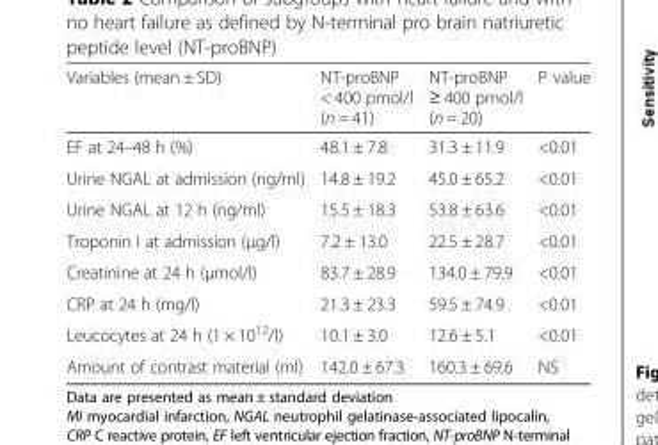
<table><thead><tr><td>Variables (mean ± SD)</td><td>NT-proBNP &lt; 400 pmol/l (n = 41)</td><td>NT-proBNP ≥ 400 pmol/l (n = 20)</td><td>P value</td></tr></thead><tbody><tr><td>EF at 24–48 h (%)</td><td>48.1 ± 7.8</td><td>31.3 ± 11.9</td><td>&lt;0.01</td></tr><tr><td>Urine NGAL at admission (ng/ml)</td><td>14.8 ± 19.2</td><td>45.0 ± 65.2</td><td>&lt;0.01</td></tr><tr><td>Urine NGAL at 12 h (ng/ml)</td><td>15.5 ± 18.3</td><td>53.8 ± 63.6</td><td>&lt;0.01</td></tr><tr><td>Troponin I at admission (μg/l)</td><td>7.2 ± 13.0</td><td>22.5 ± 28.7</td><td>&lt;0.01</td></tr><tr><td>Creatinine at 24 h (μmol/l)</td><td>83.7 ± 28.9</td><td>134.0 ± 79.9</td><td>&lt;0.01</td></tr><tr><td>CRP at 24 h (mg/l)</td><td>21.3 ± 23.3</td><td>59.5 ± 74.9</td><td>&lt;0.01</td></tr><tr><td>Leucocytes at 24 h (1 × 10<sup>12</sup>/l)</td><td>10.1 ± 3.0</td><td>12.6 ± 5.1</td><td>&lt;0.01</td></tr><tr><td>Amount of contrast material (ml)</td><td>142.0 ± 67.3</td><td>160.3 ± 69.6</td><td>NS</td></tr></tbody></table>